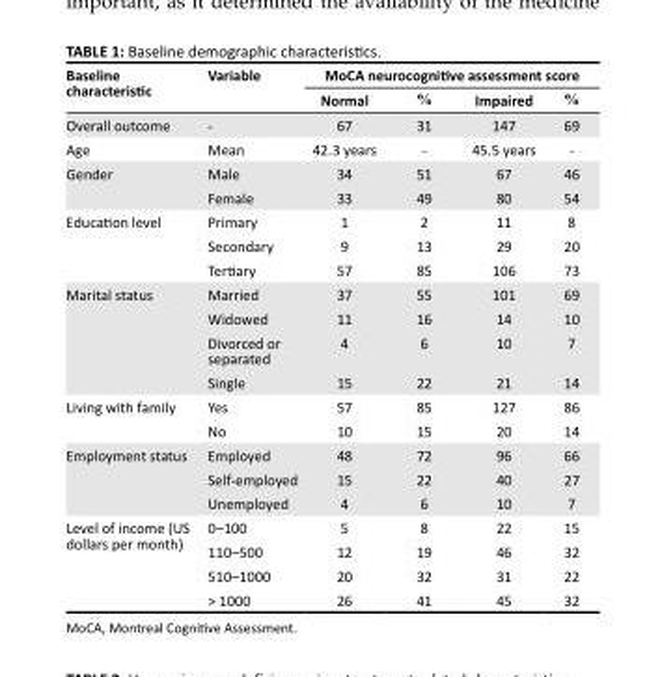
<table><thead><tr><td rowspan="2">Baseline characteristic</td><td rowspan="2">Variable</td><td colspan="4">MoCA neurocognitive assessment score</td></tr><tr><td>Normal</td><td>%</td><td>Impaired</td><td>%</td></tr></thead><tbody><tr><td>Overall outcome</td><td>-</td><td>67</td><td>31</td><td>147</td><td>69</td></tr><tr><td>Age</td><td>Mean</td><td>42.3 years</td><td>-</td><td>45.5 years</td><td>-</td></tr><tr><td rowspan="2">Gender</td><td>Male</td><td>34</td><td>51</td><td>67</td><td>46</td></tr><tr><td>Female</td><td>33</td><td>49</td><td>80</td><td>54</td></tr><tr><td rowspan="3">Education level</td><td>Primary</td><td>1</td><td>2</td><td>11</td><td>8</td></tr><tr><td>Secondary</td><td>9</td><td>13</td><td>29</td><td>20</td></tr><tr><td>Tertiary</td><td>57</td><td>85</td><td>106</td><td>73</td></tr><tr><td rowspan="4">Marital status</td><td>Married</td><td>37</td><td>55</td><td>101</td><td>69</td></tr><tr><td>Widowed</td><td>11</td><td>16</td><td>14</td><td>10</td></tr><tr><td>Divorced or separated</td><td>4</td><td>6</td><td>10</td><td>7</td></tr><tr><td>Single</td><td>15</td><td>22</td><td>21</td><td>14</td></tr><tr><td rowspan="2">Living with family</td><td>Yes</td><td>57</td><td>85</td><td>127</td><td>86</td></tr><tr><td>No</td><td>10</td><td>15</td><td>20</td><td>14</td></tr><tr><td rowspan="3">Employment status</td><td>Employed</td><td>48</td><td>72</td><td>96</td><td>66</td></tr><tr><td>Self-employed</td><td>15</td><td>22</td><td>40</td><td>27</td></tr><tr><td>Unemployed</td><td>4</td><td>6</td><td>10</td><td>7</td></tr><tr><td rowspan="4">Level of income (US dollars per month)</td><td>0–100</td><td>5</td><td>8</td><td>22</td><td>15</td></tr><tr><td>110–500</td><td>12</td><td>19</td><td>46</td><td>32</td></tr><tr><td>510–1000</td><td>20</td><td>32</td><td>31</td><td>22</td></tr><tr><td>&gt; 1000</td><td>26</td><td>41</td><td>45</td><td>32</td></tr></tbody></table>